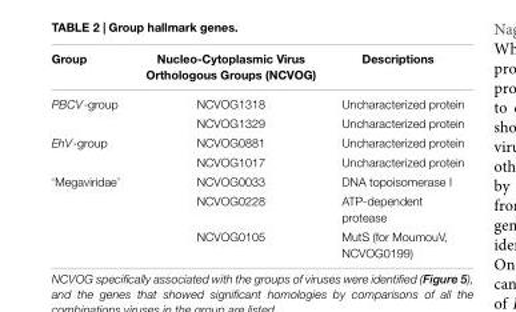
<table><thead><tr><td>Group</td><td>Nucleo-Cytoplasmic Virus Orthologous Groups (NCVOG)</td><td>Descriptions</td></tr></thead><tbody><tr><td rowspan="2">PBCV-group</td><td>NCVOG1318</td><td>Uncharacterized protein</td></tr><tr><td>NCVOG1329</td><td>Uncharacterized protein</td></tr><tr><td rowspan="2">EhV-group</td><td>NCVOG0881</td><td>Uncharacterized protein</td></tr><tr><td>NCVOG1017</td><td>Uncharacterized protein</td></tr><tr><td rowspan="3">‘Megaviridae’</td><td>NCVOG0033</td><td>DNA topoisomerase I</td></tr><tr><td>NCVOG0228</td><td>ATP-dependent protease</td></tr><tr><td>NCVOG0105</td><td>MutS (for MoumouV, NCVOG0199)</td></tr></tbody></table>